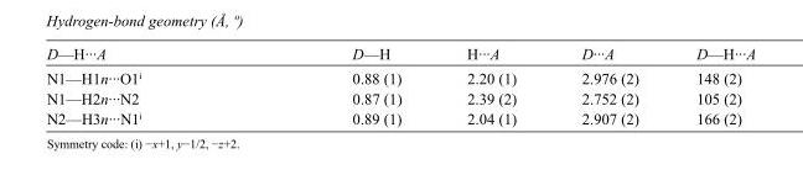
<table><tbody><tr><td>D—H···A</td><td>D—H</td><td>H···A</td><td>D···A</td><td>D—H···A</td></tr><tr><td>N1—H1n···O1<sup>i</sup></td><td>0.88 (1)</td><td>2.20 (1)</td><td>2.976 (2)</td><td>148 (2)</td></tr><tr><td>N1—H2n···N2</td><td>0.87 (1)</td><td>2.39 (2)</td><td>2.752 (2)</td><td>105 (2)</td></tr><tr><td>N2—H3n···N1<sup>i</sup></td><td>0.89 (1)</td><td>2.04 (1)</td><td>2.907 (2)</td><td>166 (2)</td></tr></tbody></table>